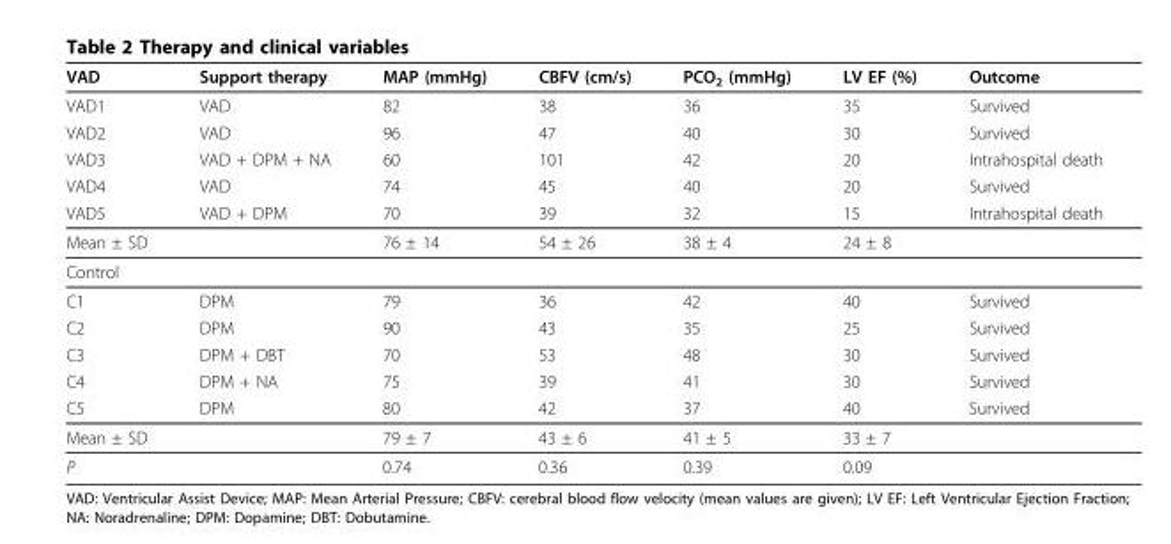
<table><thead><tr><td>VAD</td><td>Support therapy</td><td>MAP (mmHg)</td><td>CBFV (cm/s)</td><td>PCO<sub>2</sub> (mmHg)</td><td>LV EF (%)</td><td>Outcome</td></tr></thead><tbody><tr><td>VAD1</td><td>VAD</td><td>82</td><td>38</td><td>36</td><td>35</td><td>Survived</td></tr><tr><td>VAD2</td><td>VAD</td><td>96</td><td>47</td><td>40</td><td>30</td><td>Survived</td></tr><tr><td>VAD3</td><td>VAD + DPM + NA</td><td>60</td><td>101</td><td>42</td><td>20</td><td>Intrahospital death</td></tr><tr><td>VAD4</td><td>VAD</td><td>74</td><td>45</td><td>40</td><td>20</td><td>Survived</td></tr><tr><td>VAD5</td><td>VAD + DPM</td><td>70</td><td>39</td><td>32</td><td>15</td><td>Intrahospital death</td></tr><tr><td>Mean ± SD</td><td></td><td>76 ± 14</td><td>54 ± 26</td><td>38 ± 4</td><td>24 ± 8</td><td></td></tr><tr><td colspan="7">Control</td></tr><tr><td>C1</td><td>DPM</td><td>79</td><td>36</td><td>42</td><td>40</td><td>Survived</td></tr><tr><td>C2</td><td>DPM</td><td>90</td><td>43</td><td>35</td><td>25</td><td>Survived</td></tr><tr><td>C3</td><td>DPM + DBT</td><td>70</td><td>53</td><td>48</td><td>30</td><td>Survived</td></tr><tr><td>C4</td><td>DPM + NA</td><td>75</td><td>39</td><td>41</td><td>30</td><td>Survived</td></tr><tr><td>C5</td><td>DPM</td><td>80</td><td>42</td><td>37</td><td>40</td><td>Survived</td></tr><tr><td>Mean ± SD</td><td></td><td>79 ± 7</td><td>43 ± 6</td><td>41 ± 5</td><td>33 ± 7</td><td></td></tr><tr><td>P</td><td></td><td>0.74</td><td>0.36</td><td>0.39</td><td>0.09</td><td></td></tr></tbody></table>